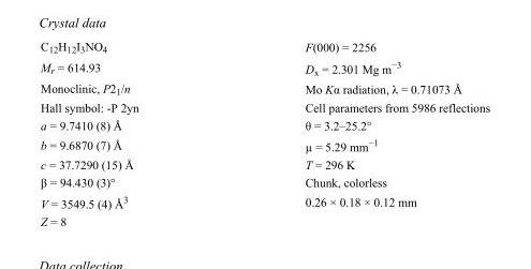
<table><tbody><tr><td>C<sub>12</sub>H<sub>12</sub>I<sub>3</sub>NO<sub>4</sub></td><td>F(000) = 2256</td></tr><tr><td>M<sub>r</sub> = 614.93</td><td>D<sub>x</sub> = 2.301 Mg m<sup>−3</sup></td></tr><tr><td>Monoclinic, P2<sub>1</sub>/n</td><td>Mo Kα radiation, λ = 0.71073 Å</td></tr><tr><td>Hall symbol: -P 2yn</td><td>Cell parameters from 5986 reflections</td></tr><tr><td>a = 9.7410 (8) Å</td><td>θ = 3.2–25.2°</td></tr><tr><td>b = 9.6870 (7) Å</td><td>µ = 5.29 mm<sup>−1</sup></td></tr><tr><td>c = 37.7290 (15) Å</td><td>T = 296 K</td></tr><tr><td>β = 94.430 (3)°</td><td>Chunk, colorless</td></tr><tr><td>V = 3549.5 (4) Å<sup>3</sup></td><td>0.26 × 0.18 × 0.12 mm</td></tr><tr><td>Z = 8</td><td></td></tr></tbody></table>